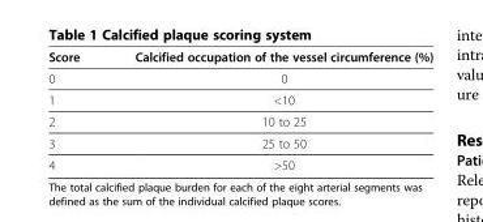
<table><thead><tr><td>Score</td><td>Calcified occupation of the vessel circumference (%)</td></tr></thead><tbody><tr><td>0</td><td>0</td></tr><tr><td>1</td><td>&lt;10</td></tr><tr><td>2</td><td>10 to 25</td></tr><tr><td>3</td><td>25 to 50</td></tr><tr><td>4</td><td>&gt;50</td></tr></tbody></table>